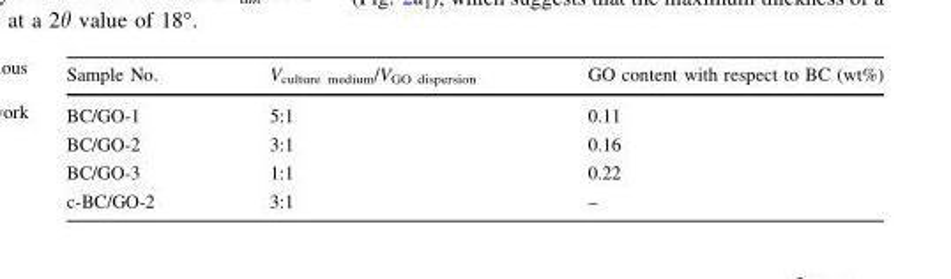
<table><thead><tr><td>Sample No.</td><td>V<sub>culture medium</sub>/V<sub>GO dispersion</sub></td><td>GO content with respect to BC (wt%)</td></tr></thead><tbody><tr><td>BC/GO-1</td><td>5:1</td><td>0.11</td></tr><tr><td>BC/GO-2</td><td>3:1</td><td>0.16</td></tr><tr><td>BC/GO-3</td><td>1:1</td><td>0.22</td></tr><tr><td>c-BC/GO-2</td><td>3:1</td><td>–</td></tr></tbody></table>